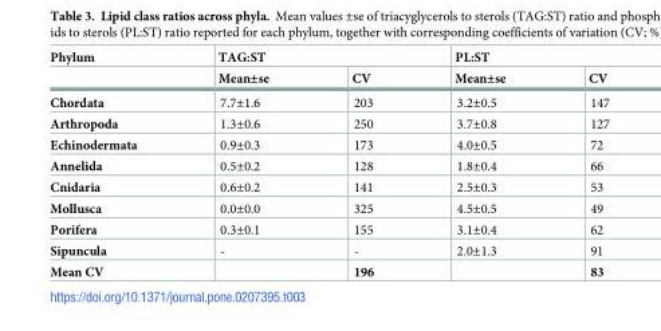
<table><thead><tr><td rowspan="2">Phylum</td><td colspan="2">TAG:ST</td><td colspan="2">PL:ST</td></tr><tr><td>Mean±se</td><td>CV</td><td>Mean±se</td><td>CV</td></tr></thead><tbody><tr><td>Chordata</td><td>7.7±1.6</td><td>203</td><td>3.2±0.5</td><td>147</td></tr><tr><td>Arthropoda</td><td>1.3±0.6</td><td>250</td><td>3.7±0.8</td><td>127</td></tr><tr><td>Echinodermata</td><td>0.9±0.3</td><td>173</td><td>4.0±0.5</td><td>72</td></tr><tr><td>Annelida</td><td>0.5±0.2</td><td>128</td><td>1.8±0.4</td><td>66</td></tr><tr><td>Cnidaria</td><td>0.6±0.2</td><td>141</td><td>2.5±0.3</td><td>53</td></tr><tr><td>Mollusca</td><td>0.0±0.0</td><td>325</td><td>4.5±0.5</td><td>49</td></tr><tr><td>Porifera</td><td>0.3±0.1</td><td>155</td><td>3.1±0.4</td><td>62</td></tr><tr><td>Sipuncula</td><td>-</td><td>-</td><td>2.0±1.3</td><td>91</td></tr><tr><td>Mean CV</td><td></td><td>196</td><td></td><td>83</td></tr></tbody></table>